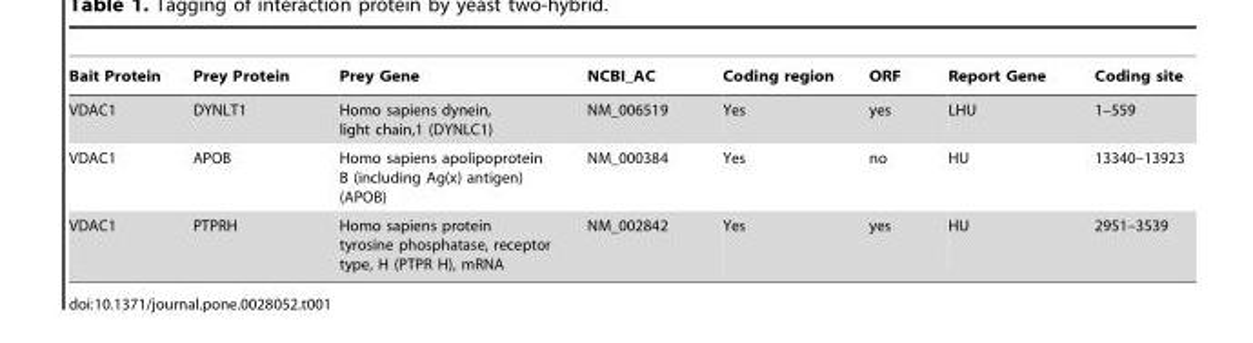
<table><thead><tr><td>Bait Protein</td><td>Prey Protein</td><td>Prey Gene</td><td>NCBI_AC</td><td>Coding region</td><td>ORF</td><td>Report Gene</td><td>Coding site</td></tr></thead><tbody><tr><td>VDAC1</td><td>DYNLT1</td><td>Homo sapiens dynein, light chain,1 (DYNLC1)</td><td>NM_006519</td><td>Yes</td><td>yes</td><td>LHU</td><td>1–559</td></tr><tr><td>VDAC1</td><td>APOB</td><td>Homo sapiens apolipoprotein B (including Ag(x) antigen) (APOB)</td><td>NM_000384</td><td>Yes</td><td>no</td><td>HU</td><td>13340–13923</td></tr><tr><td>VDAC1</td><td>PTPRH</td><td>Homo sapiens protein tyrosine phosphatase, receptor type, H (PTPR H), mRNA</td><td>NM_002842</td><td>Yes</td><td>yes</td><td>HU</td><td>2951–3539</td></tr></tbody></table>